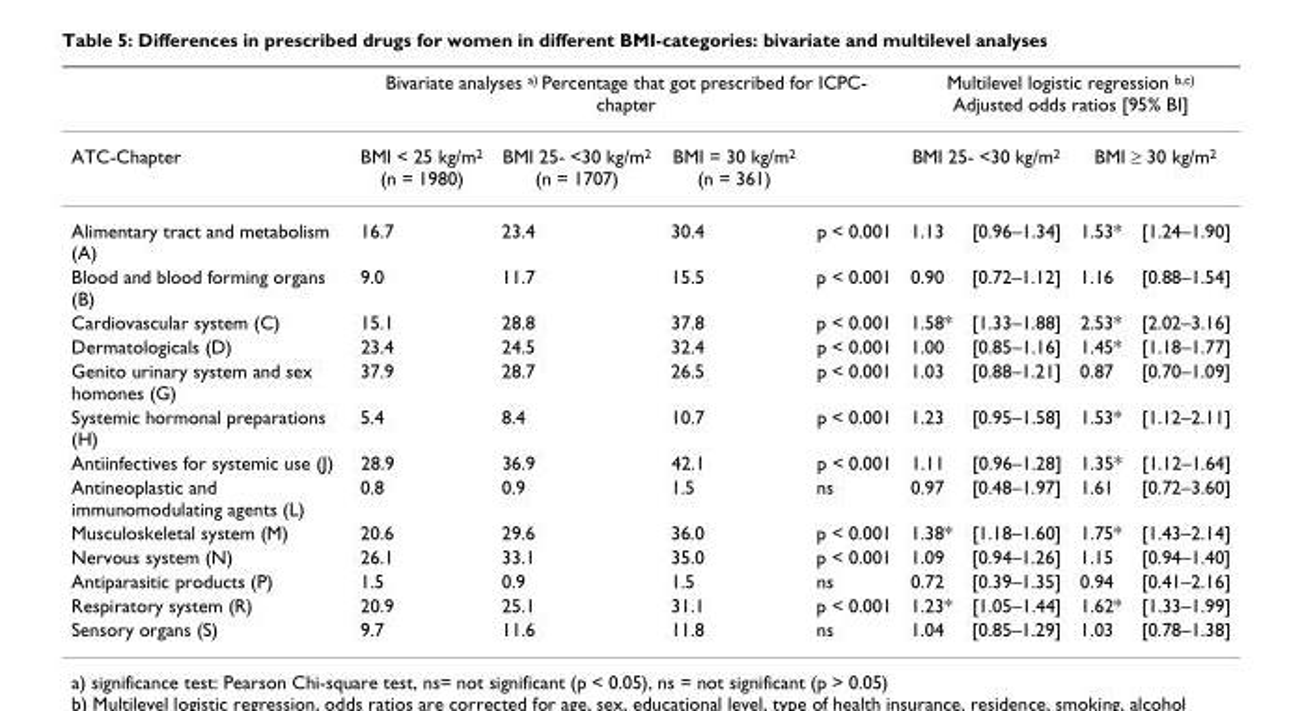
<table><thead><tr><td rowspan="3">ATC-Chapter Alimentary tract and metabolism (A)</td><td colspan="4">Bivariate analyses a) Percentage that got prescribed for ICPC- chapter</td><td colspan="4">Multilevel logistic regression b,c) Adjusted odds ratios [95% BI]</td></tr><tr><td rowspan="2">BMI &lt; 25 kg/m2 (n = 1980) 16.7</td><td rowspan="2">BMI 25- &lt;30 kg/m2 (n = 1707) 23.4</td><td rowspan="2">BMI = 30 kg/m2 (n = 361) 30.4</td><td rowspan="2">p &lt; 0.001</td><td colspan="2">BMI 25- &lt;30 kg/m2</td><td colspan="2">BMI ≥ 30 kg/m2</td></tr><tr><td>1.13</td><td>[0.96–1.34]</td><td>1.53*</td><td>[1.24–1.90]</td></tr></thead><tbody><tr><td>Blood and blood forming organs (B)</td><td>9.0</td><td>11.7</td><td>15.5</td><td>p &lt; 0.001</td><td>0.90</td><td>[0.72–1.12]</td><td>1.16</td><td>[0.88–1.54]</td></tr><tr><td>Cardiovascular system (C)</td><td>15.1</td><td>28.8</td><td>37.8</td><td>p &lt; 0.001</td><td>1.58*</td><td>[1.33–1.88]</td><td>2.53*</td><td>[2.02–3.16]</td></tr><tr><td>Dermatologicals (D)</td><td>23.4</td><td>24.5</td><td>32.4</td><td>p &lt; 0.001</td><td>1.00</td><td>[0.85–1.16]</td><td>1.45*</td><td>[1.18–1.77]</td></tr><tr><td>Genito urinary system and sex homones (G)</td><td>37.9</td><td>28.7</td><td>26.5</td><td>p &lt; 0.001</td><td>1.03</td><td>[0.88–1.21]</td><td>0.87</td><td>[0.70–1.09]</td></tr><tr><td>Systemic hormonal preparations (H)</td><td>5.4</td><td>8.4</td><td>10.7</td><td>p &lt; 0.001</td><td>1.23</td><td>[0.95–1.58]</td><td>1.53*</td><td>[1.12–2.11]</td></tr><tr><td>Antiinfectives for systemic use (J)</td><td>28.9</td><td>36.9</td><td>42.1</td><td>p &lt; 0.001</td><td>1.11</td><td>[0.96–1.28]</td><td>1.35*</td><td>[1.12–1.64]</td></tr><tr><td>Antineoplastic and immunomodulating agents (L)</td><td>0.8</td><td>0.9</td><td>1.5</td><td>ns</td><td>0.97</td><td>[0.48–1.97]</td><td>1.61</td><td>[0.72–3.60]</td></tr><tr><td>Musculoskeletal system (M)</td><td>20.6</td><td>29.6</td><td>36.0</td><td>p &lt; 0.001</td><td>1.38*</td><td>[1.18–1.60]</td><td>1.75*</td><td>[1.43–2.14]</td></tr><tr><td>Nervous system (N)</td><td>26.1</td><td>33.1</td><td>35.0</td><td>p &lt; 0.001</td><td>1.09</td><td>[0.94–1.26]</td><td>1.15</td><td>[0.94–1.40]</td></tr><tr><td>Antiparasitic products (P)</td><td>1.5</td><td>0.9</td><td>1.5</td><td>ns</td><td>0.72</td><td>[0.39–1.35]</td><td>0.94</td><td>[0.41–2.16]</td></tr><tr><td>Respiratory system (R)</td><td>20.9</td><td>25.1</td><td>31.1</td><td>p &lt; 0.001</td><td>1.23*</td><td>[1.05–1.44]</td><td>1.62*</td><td>[1.33–1.99]</td></tr><tr><td>Sensory organs (S)</td><td>9.7</td><td>11.6</td><td>11.8</td><td>ns</td><td>1.04</td><td>[0.85–1.29]</td><td>1.03</td><td>[0.78–1.38]</td></tr></tbody></table>